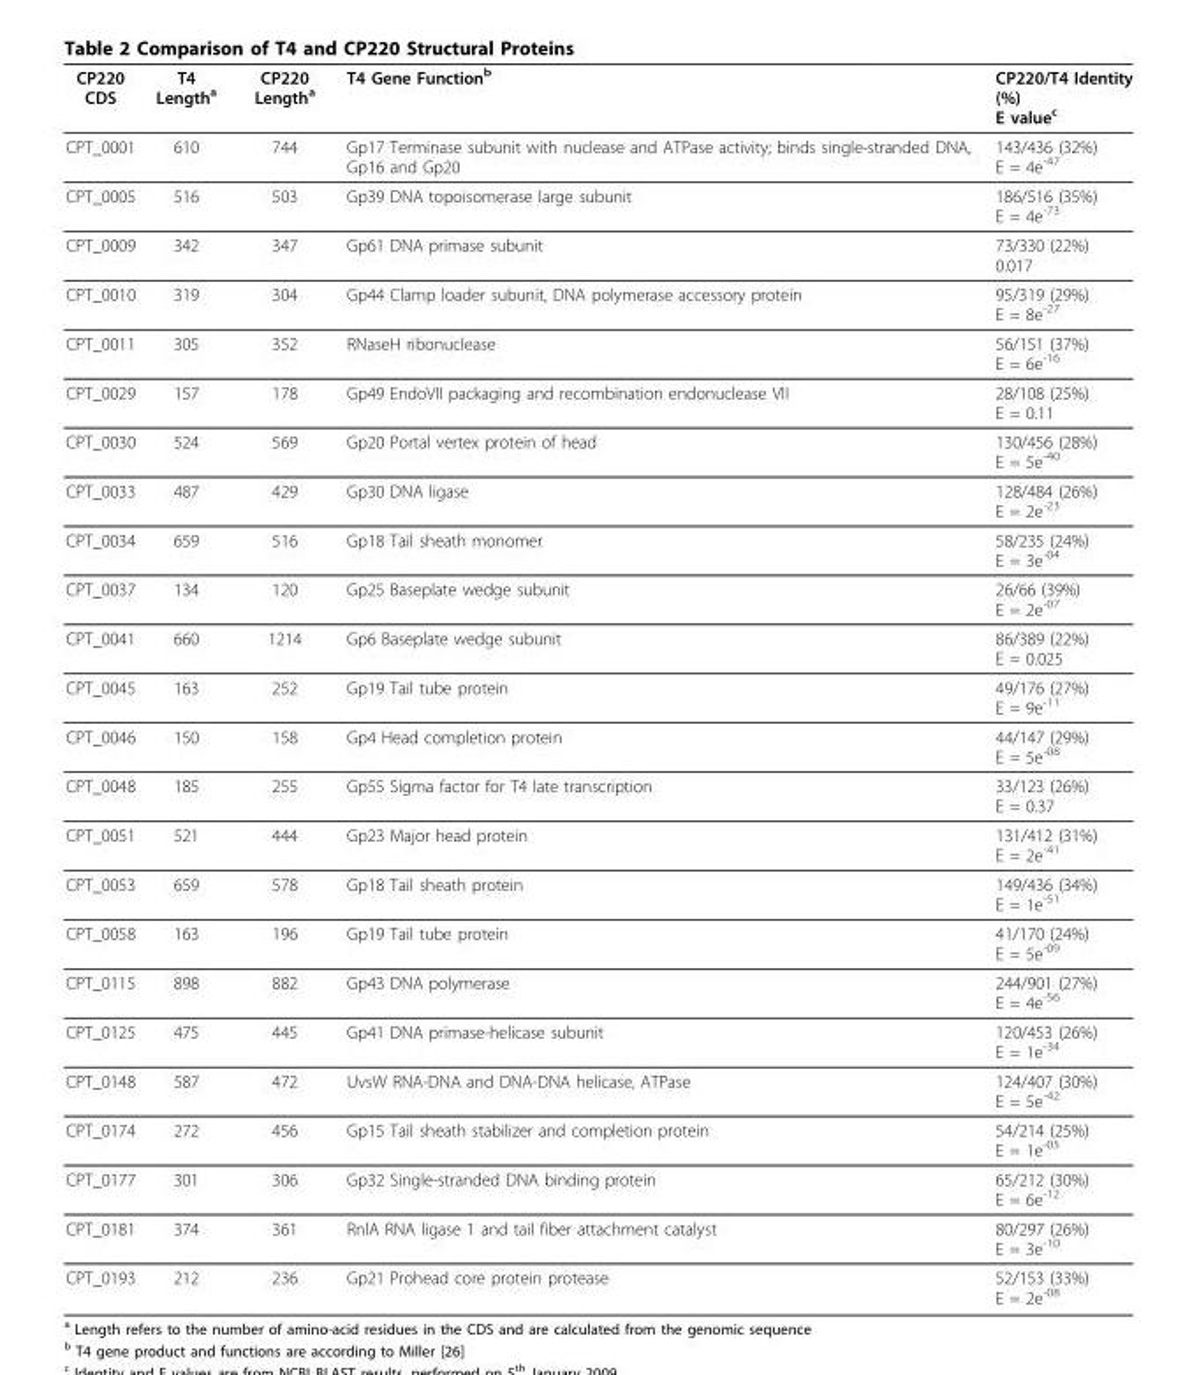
<table><thead><tr><td>CP220 CDS</td><td>T4 Length<sup>a</sup></td><td>CP220 Length<sup>a</sup></td><td>T4 Gene Function<sup>b</sup></td><td>CP220/T4 Identity (%) E value<sup>c</sup></td></tr></thead><tbody><tr><td>CPT_0001</td><td>610</td><td>744</td><td>Gp17 Terminase subunit with nuclease and ATPase activity; binds single-stranded DNA, Gp16 and Gp20</td><td>143/436 (32%) E = 4e<sup>-47</sup></td></tr><tr><td>CPT_0005</td><td>516</td><td>503</td><td>Gp39 DNA topoisomerase large subunit</td><td>186/516 (35%) E = 4e<sup>-73</sup></td></tr><tr><td>CPT_0009</td><td>342</td><td>347</td><td>Gp61 DNA primase subunit</td><td>73/330 (22%) 0.017</td></tr><tr><td>CPT_0010</td><td>319</td><td>304</td><td>Gp44 Clamp loader subunit, DNA polymerase accessory protein</td><td>95/319 (29%) E = 8e<sup>-27</sup></td></tr><tr><td>CPT_0011</td><td>305</td><td>352</td><td>RNaseH ribonuclease</td><td>56/151 (37%) E = 6e<sup>-16</sup></td></tr><tr><td>CPT_0029</td><td>157</td><td>178</td><td>Gp49 EndoVII packaging and recombination endonuclease VII</td><td>28/108 (25%) E = 0.11</td></tr><tr><td>CPT_0030</td><td>524</td><td>569</td><td>Gp20 Portal vertex protein of head</td><td>130/456 (28%) E = 5e<sup>-40</sup></td></tr><tr><td>CPT_0033</td><td>487</td><td>429</td><td>Gp30 DNA ligase</td><td>128/484 (26%) E = 2e<sup>-23</sup></td></tr><tr><td>CPT_0034</td><td>659</td><td>516</td><td>Gp18 Tail sheath monomer</td><td>58/235 (24%) E = 3e<sup>-04</sup></td></tr><tr><td>CPT_0037</td><td>134</td><td>120</td><td>Gp25 Baseplate wedge subunit</td><td>26/66 (39%) E = 2e<sup>-07</sup></td></tr><tr><td>CPT_0041</td><td>660</td><td>1214</td><td>Gp6 Baseplate wedge subunit</td><td>86/389 (22%) E = 0.025</td></tr><tr><td>CPT_0045</td><td>163</td><td>252</td><td>Gp19 Tail tube protein</td><td>49/176 (27%) E = 9e<sup>-11</sup></td></tr><tr><td>CPT_0046</td><td>150</td><td>158</td><td>Gp4 Head completion protein</td><td>44/147 (29%) E = 5e<sup>-08</sup></td></tr><tr><td>CPT_0048</td><td>185</td><td>255</td><td>Gp55 Sigma factor for T4 late transcription</td><td>33/123 (26%) E = 0.37</td></tr><tr><td>CPT_0051</td><td>521</td><td>444</td><td>Gp23 Major head protein</td><td>131/412 (31%) E = 2e<sup>-41</sup></td></tr><tr><td>CPT_0053</td><td>659</td><td>578</td><td>Gp18 Tail sheath protein</td><td>149/436 (34%) E = 1e<sup>-51</sup></td></tr><tr><td>CPT_0058</td><td>163</td><td>196</td><td>Gp19 Tail tube protein</td><td>41/170 (24%) E = 5e<sup>-09</sup></td></tr><tr><td>CPT_0115</td><td>898</td><td>882</td><td>Gp43 DNA polymerase</td><td>244/901 (27%) E = 4e<sup>-56</sup></td></tr><tr><td>CPT_0125</td><td>475</td><td>445</td><td>Gp41 DNA primase-helicase subunit</td><td>120/453 (26%) E = 1e<sup>-34</sup></td></tr><tr><td>CPT_0148</td><td>587</td><td>472</td><td>UvsW RNA-DNA and DNA-DNA helicase, ATPase</td><td>124/407 (30%) E = 5e<sup>-42</sup></td></tr><tr><td>CPT_0174</td><td>272</td><td>456</td><td>Gp15 Tail sheath stabilizer and completion protein</td><td>54/214 (25%) E = 1e<sup>-05</sup></td></tr><tr><td>CPT_0177</td><td>301</td><td>306</td><td>Gp32 Single-stranded DNA binding protein</td><td>65/212 (30%) E = 6e<sup>-12</sup></td></tr><tr><td>CPT_0181</td><td>374</td><td>361</td><td>RnlA RNA ligase 1 and tail fiber attachment catalyst</td><td>80/297 (26%) E = 3e<sup>-10</sup></td></tr><tr><td>CPT_0193</td><td>212</td><td>236</td><td>Gp21 Prohead core protein protease</td><td>52/153 (33%) E = 2e<sup>-08</sup></td></tr></tbody></table>